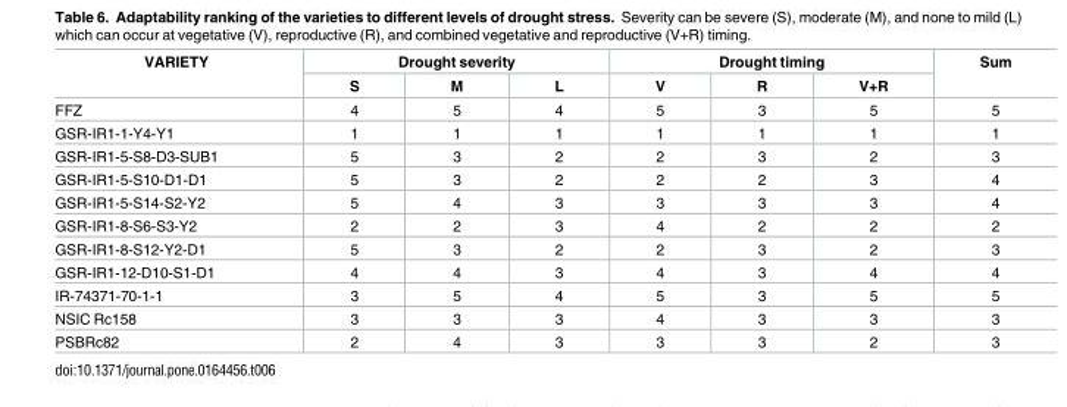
<table><thead><tr><td rowspan="2">VARIETY</td><td colspan="3">Drought severity</td><td colspan="3">Drought timing</td><td rowspan="2">Sum</td></tr><tr><td>S</td><td>M</td><td>L</td><td>V</td><td>R</td><td>V+R</td></tr></thead><tbody><tr><td>FFZ</td><td>4</td><td>5</td><td>4</td><td>5</td><td>3</td><td>5</td><td>5</td></tr><tr><td>GSR-IR1-1-Y4-Y1</td><td>1</td><td>1</td><td>1</td><td>1</td><td>1</td><td>1</td><td>1</td></tr><tr><td>GSR-IR1-5-S8-D3-SUB1</td><td>5</td><td>3</td><td>2</td><td>2</td><td>3</td><td>2</td><td>3</td></tr><tr><td>GSR-IR1-5-S10-D1-D1</td><td>5</td><td>3</td><td>2</td><td>2</td><td>2</td><td>3</td><td>4</td></tr><tr><td>GSR-IR1-5-S14-S2-Y2</td><td>5</td><td>4</td><td>3</td><td>3</td><td>3</td><td>3</td><td>4</td></tr><tr><td>GSR-IR1-8-S6-S3-Y2</td><td>2</td><td>2</td><td>3</td><td>4</td><td>2</td><td>2</td><td>2</td></tr><tr><td>GSR-IR1-8-S12-Y2-D1</td><td>5</td><td>3</td><td>2</td><td>2</td><td>3</td><td>2</td><td>3</td></tr><tr><td>GSR-IR1-12-D10-S1-D1</td><td>4</td><td>4</td><td>3</td><td>4</td><td>3</td><td>4</td><td>4</td></tr><tr><td>IR-74371-70-1-1</td><td>3</td><td>5</td><td>4</td><td>5</td><td>3</td><td>5</td><td>5</td></tr><tr><td>NSIC Rc158</td><td>3</td><td>3</td><td>3</td><td>4</td><td>3</td><td>3</td><td>3</td></tr><tr><td>PSBRc82</td><td>2</td><td>4</td><td>3</td><td>3</td><td>3</td><td>2</td><td>3</td></tr></tbody></table>